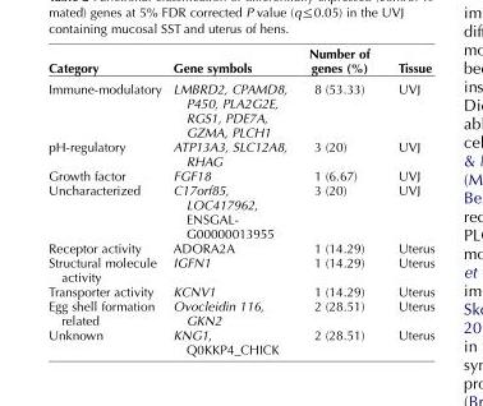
<table><thead><tr><td>Category</td><td>Gene symbols</td><td>Number of genes (%)</td><td>Tissue</td></tr></thead><tbody><tr><td>Immune-modulatory</td><td>LMBRD2, CPAMD8, P450, PLA2G2E, RGS1, PDE7A, GZMA, PLCH1</td><td>8 (53.33)</td><td>UVJ</td></tr><tr><td>pH-regulatory</td><td>ATP13A3, SLC12A8, RHAG</td><td>3 (20)</td><td>UVJ</td></tr><tr><td>Growth factor</td><td>FGF18</td><td>1 (6.67)</td><td>UVJ</td></tr><tr><td>Uncharacterized</td><td>C17orf85, LOC417962, ENSGAL- G00000013955</td><td>3 (20)</td><td>UVJ</td></tr><tr><td>Receptor activity</td><td>ADORA2A</td><td>1 (14.29)</td><td>Uterus</td></tr><tr><td>Structural molecule activity</td><td>IGFN1</td><td>1 (14.29)</td><td>Uterus</td></tr><tr><td>Transporter activity</td><td>KCNV1</td><td>1 (14.29)</td><td>Uterus</td></tr><tr><td>Egg shell formation related</td><td>Ovocleidin 116, GKN2</td><td>2 (28.51)</td><td>Uterus</td></tr><tr><td>Unknown</td><td>KNG1, Q0KKP4_CHICK</td><td>2 (28.51)</td><td>Uterus</td></tr></tbody></table>